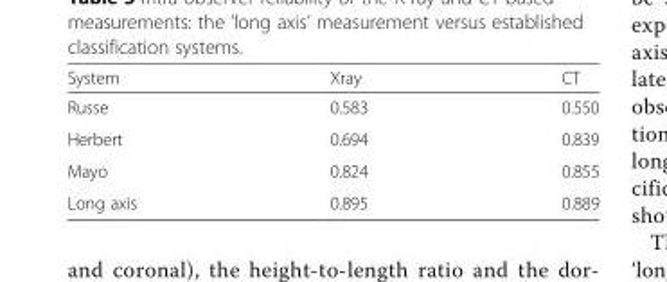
<table><thead><tr><td>System</td><td>Xray</td><td>CT</td></tr></thead><tbody><tr><td>Russe</td><td>0.583</td><td>0.550</td></tr><tr><td>Herbert</td><td>0.694</td><td>0.839</td></tr><tr><td>Mayo</td><td>0.824</td><td>0.855</td></tr><tr><td>Long axis</td><td>0.895</td><td>0.889</td></tr></tbody></table>